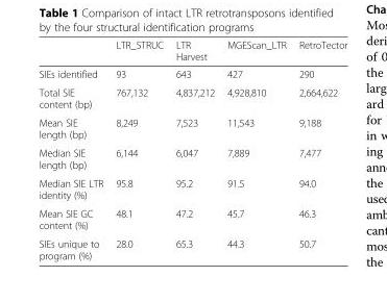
<table><thead><tr><td></td><td>LTR_STRUC</td><td>LTR Harvest</td><td>MGEScan_LTR</td><td>RetroTector</td></tr></thead><tbody><tr><td>SIEs identified</td><td>93</td><td>643</td><td>427</td><td>290</td></tr><tr><td>Total SIE content (bp)</td><td>767,132</td><td>4,837,212</td><td>4,928,810</td><td>2,664,622</td></tr><tr><td>Mean SIE length (bp)</td><td>8,249</td><td>7,523</td><td>11,543</td><td>9,188</td></tr><tr><td>Median SIE length (bp)</td><td>6,144</td><td>6,047</td><td>7,889</td><td>7,477</td></tr><tr><td>Median SIE LTR identity (%)</td><td>95.8</td><td>95.2</td><td>91.5</td><td>94.0</td></tr><tr><td>Mean SIE GC content (%)</td><td>48.1</td><td>47.2</td><td>45.7</td><td>46.3</td></tr><tr><td>SIEs unique to program (%)</td><td>28.0</td><td>65.3</td><td>44.3</td><td>50.7</td></tr></tbody></table>